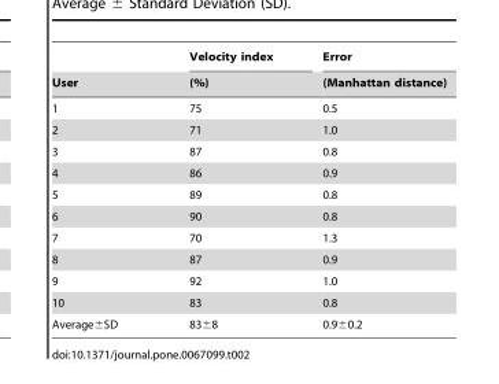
<table><thead><tr><td rowspan="2">User</td><td rowspan="2">Velocity index (%)</td><td rowspan="2">Error (Manhattan distance)</td></tr><tr></tr></thead><tbody><tr><td>1</td><td>75</td><td>0.5</td></tr><tr><td>2</td><td>71</td><td>1.0</td></tr><tr><td>3</td><td>87</td><td>0.8</td></tr><tr><td>4</td><td>86</td><td>0.9</td></tr><tr><td>5</td><td>89</td><td>0.8</td></tr><tr><td>6</td><td>90</td><td>0.8</td></tr><tr><td>7</td><td>70</td><td>1.3</td></tr><tr><td>8</td><td>87</td><td>0.9</td></tr><tr><td>9</td><td>92</td><td>1.0</td></tr><tr><td>10</td><td>83</td><td>0.8</td></tr><tr><td>Average±SD</td><td>83±8</td><td>0.9±0.2</td></tr></tbody></table>